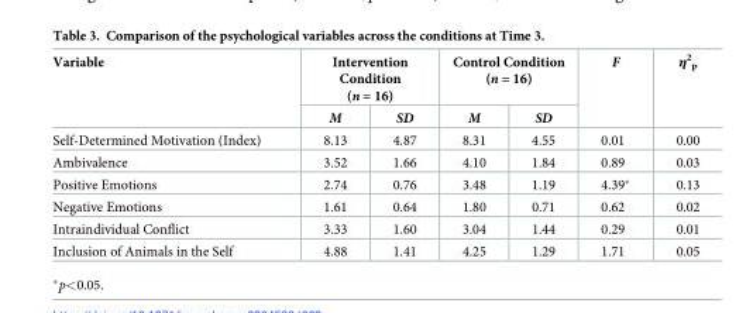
<table><thead><tr><td rowspan="2">Variable</td><td colspan="2">Intervention Condition (n = 16)</td><td colspan="2">Control Condition (n = 16)</td><td rowspan="2">F</td><td rowspan="2">η<sup>2</sup> <sub>p</sub></td></tr><tr><td>M</td><td>SD</td><td>M</td><td>SD</td></tr></thead><tbody><tr><td>Self-Determined Motivation (Index)</td><td>8.13</td><td>4.87</td><td>8.31</td><td>4.55</td><td>0.01</td><td>0.00</td></tr><tr><td>Ambivalence</td><td>3.52</td><td>1.66</td><td>4.10</td><td>1.84</td><td>0.89</td><td>0.03</td></tr><tr><td>Positive Emotions</td><td>2.74</td><td>0.76</td><td>3.48</td><td>1.19</td><td>4.39*</td><td>0.13</td></tr><tr><td>Negative Emotions</td><td>1.61</td><td>0.64</td><td>1.80</td><td>0.71</td><td>0.62</td><td>0.02</td></tr><tr><td>Intraindividual Conflict</td><td>3.33</td><td>1.60</td><td>3.04</td><td>1.44</td><td>0.29</td><td>0.01</td></tr><tr><td>Inclusion of Animals in the Self</td><td>4.88</td><td>1.41</td><td>4.25</td><td>1.29</td><td>1.71</td><td>0.05</td></tr></tbody></table>